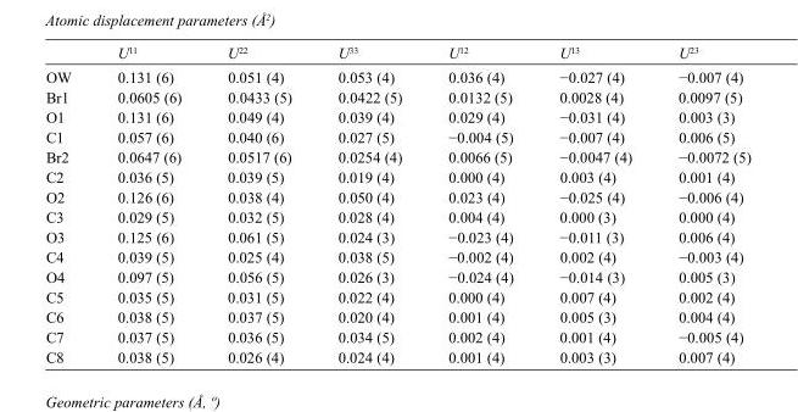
<table><thead><tr><td></td><td>U<sup>11</sup></td><td>U<sup>22</sup></td><td>U<sup>33</sup></td><td>U<sup>12</sup></td><td>U<sup>13</sup></td><td>U<sup>23</sup></td></tr></thead><tbody><tr><td>OW</td><td>0.131 (6)</td><td>0.051 (4)</td><td>0.053 (4)</td><td>0.036 (4)</td><td>−0.027 (4)</td><td>−0.007 (4)</td></tr><tr><td>Br1</td><td>0.0605 (6)</td><td>0.0433 (5)</td><td>0.0422 (5)</td><td>0.0132 (5)</td><td>0.0028 (4)</td><td>0.0097 (5)</td></tr><tr><td>O1</td><td>0.131 (6)</td><td>0.049 (4)</td><td>0.039 (4)</td><td>0.029 (4)</td><td>−0.031 (4)</td><td>0.003 (3)</td></tr><tr><td>C1</td><td>0.057 (6)</td><td>0.040 (6)</td><td>0.027 (5)</td><td>−0.004 (5)</td><td>−0.007 (4)</td><td>0.006 (5)</td></tr><tr><td>Br2</td><td>0.0647 (6)</td><td>0.0517 (6)</td><td>0.0254 (4)</td><td>0.0066 (5)</td><td>−0.0047 (4)</td><td>−0.0072 (5)</td></tr><tr><td>C2</td><td>0.036 (5)</td><td>0.039 (5)</td><td>0.019 (4)</td><td>0.000 (4)</td><td>0.003 (4)</td><td>0.001 (4)</td></tr><tr><td>O2</td><td>0.126 (6)</td><td>0.038 (4)</td><td>0.050 (4)</td><td>0.023 (4)</td><td>−0.025 (4)</td><td>−0.006 (4)</td></tr><tr><td>C3</td><td>0.029 (5)</td><td>0.032 (5)</td><td>0.028 (4)</td><td>0.004 (4)</td><td>0.000 (3)</td><td>0.000 (4)</td></tr><tr><td>O3</td><td>0.125 (6)</td><td>0.061 (5)</td><td>0.024 (3)</td><td>−0.023 (4)</td><td>−0.011 (3)</td><td>0.006 (4)</td></tr><tr><td>C4</td><td>0.039 (5)</td><td>0.025 (4)</td><td>0.038 (5)</td><td>−0.002 (4)</td><td>0.002 (4)</td><td>−0.003 (4)</td></tr><tr><td>O4</td><td>0.097 (5)</td><td>0.056 (5)</td><td>0.026 (3)</td><td>−0.024 (4)</td><td>−0.014 (3)</td><td>0.005 (3)</td></tr><tr><td>C5</td><td>0.035 (5)</td><td>0.031 (5)</td><td>0.022 (4)</td><td>0.000 (4)</td><td>0.007 (4)</td><td>0.002 (4)</td></tr><tr><td>C6</td><td>0.038 (5)</td><td>0.037 (5)</td><td>0.020 (4)</td><td>0.001 (4)</td><td>0.005 (3)</td><td>0.004 (4)</td></tr><tr><td>C7</td><td>0.037 (5)</td><td>0.036 (5)</td><td>0.034 (5)</td><td>0.002 (4)</td><td>0.001 (4)</td><td>−0.005 (4)</td></tr><tr><td>C8</td><td>0.038 (5)</td><td>0.026 (4)</td><td>0.024 (4)</td><td>0.001 (4)</td><td>0.003 (3)</td><td>0.007 (4)</td></tr></tbody></table>